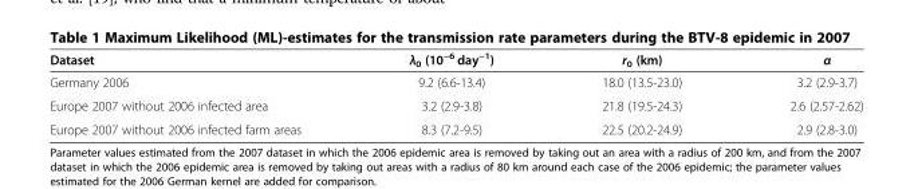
<table><thead><tr><td>Dataset</td><td>λ<sub>0</sub> (10<sup>−6</sup> day<sup>−1</sup>)</td><td>r<sub>0</sub> (km)</td><td>α</td></tr></thead><tbody><tr><td>Germany 2006</td><td>9.2 (6.6-13.4)</td><td>18.0 (13.5-23.0)</td><td>3.2 (2.9-3.7)</td></tr><tr><td>Europe 2007 without 2006 infected area</td><td>3.2 (2.9-3.8)</td><td>21.8 (19.5-24.3)</td><td>2.6 (2.57-2.62)</td></tr><tr><td>Europe 2007 without 2006 infected farm areas</td><td>8.3 (7.2-9.5)</td><td>22.5 (20.2-24.9)</td><td>2.9 (2.8-3.0)</td></tr></tbody></table>